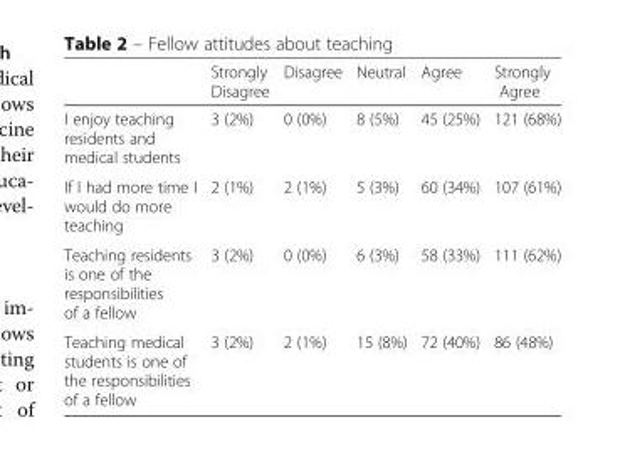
<table><thead><tr><td></td><td>Strongly Disagree</td><td>Disagree</td><td>Neutral</td><td>Agree</td><td>Strongly Agree</td></tr></thead><tbody><tr><td>I enjoy teaching residents and medical students</td><td>3 (2%)</td><td>0 (0%)</td><td>8 (5%)</td><td>45 (25%)</td><td>121 (68%)</td></tr><tr><td>If I had more time I would do more teaching</td><td>2 (1%)</td><td>2 (1%)</td><td>5 (3%)</td><td>60 (34%)</td><td>107 (61%)</td></tr><tr><td>Teaching residents is one of the responsibilities of a fellow</td><td>3 (2%)</td><td>0 (0%)</td><td>6 (3%)</td><td>58 (33%)</td><td>111 (62%)</td></tr><tr><td>Teaching medical students is one of the responsibilities of a fellow</td><td>3 (2%)</td><td>2 (1%)</td><td>15 (8%)</td><td>72 (40%)</td><td>86 (48%)</td></tr></tbody></table>